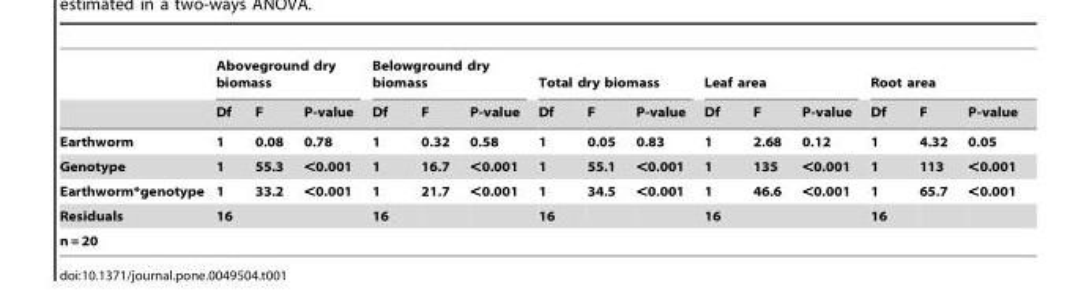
<table><thead><tr><td rowspan="2"></td><td colspan="3">Aboveground dry biomass</td><td colspan="3">Belowground dry biomass</td><td colspan="3">Total dry biomass</td><td colspan="3">Leaf area</td><td colspan="3">Root area</td></tr><tr><td>Df</td><td>F</td><td>P-value</td><td>Df</td><td>F</td><td>P-value</td><td>Df</td><td>F</td><td>P-value</td><td>Df</td><td>F</td><td>P-value</td><td>Df</td><td>F</td><td>P-value</td></tr></thead><tbody><tr><td>Earthworm</td><td>1</td><td>0.08</td><td>0.78</td><td>1</td><td>0.32</td><td>0.58</td><td>1</td><td>0.05</td><td>0.83</td><td>1</td><td>2.68</td><td>0.12</td><td>1</td><td>4.32</td><td>0.05</td></tr><tr><td>Genotype</td><td>1</td><td>55.3</td><td>&lt;0.001</td><td>1</td><td>16.7</td><td>&lt;0.001</td><td>1</td><td>55.1</td><td>&lt;0.001</td><td>1</td><td>135</td><td>&lt;0.001</td><td>1</td><td>113</td><td>&lt;0.001</td></tr><tr><td>Earthworm*genotype</td><td>1</td><td>33.2</td><td>&lt;0.001</td><td>1</td><td>21.7</td><td>&lt;0.001</td><td>1</td><td>34.5</td><td>&lt;0.001</td><td>1</td><td>46.6</td><td>&lt;0.001</td><td>1</td><td>65.7</td><td>&lt;0.001</td></tr><tr><td>Residuals</td><td>16</td><td></td><td></td><td>16</td><td></td><td></td><td>16</td><td></td><td></td><td>16</td><td></td><td></td><td>16</td><td></td><td></td></tr><tr><td>n = 20</td><td></td><td></td><td></td><td></td><td></td><td></td><td></td><td></td><td></td><td></td><td></td><td></td><td></td><td></td><td></td></tr></tbody></table>